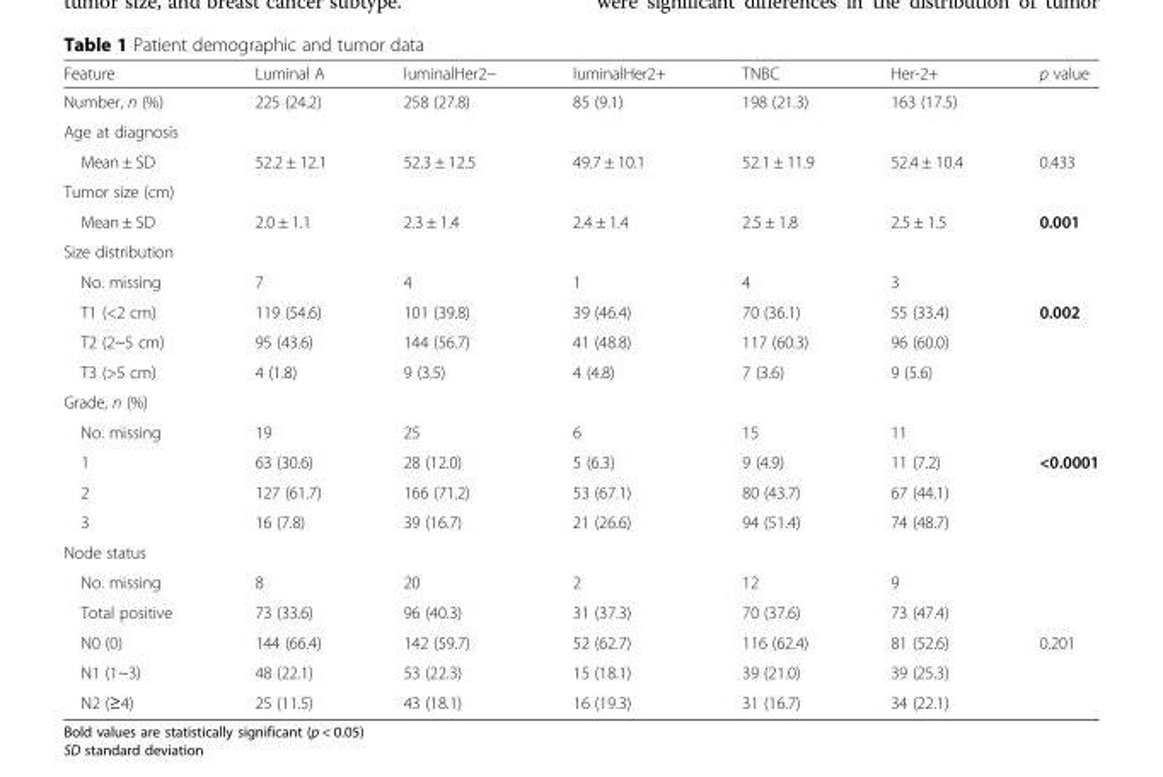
<table><thead><tr><td>Feature</td><td>Luminal A</td><td>luminalHer2−</td><td>luminalHer2+</td><td>TNBC</td><td>Her-2+</td><td>p value</td></tr></thead><tbody><tr><td>Number, n (%)</td><td>225 (24.2)</td><td>258 (27.8)</td><td>85 (9.1)</td><td>198 (21.3)</td><td>163 (17.5)</td><td></td></tr><tr><td colspan="7">Age at diagnosis</td></tr><tr><td>Mean ± SD</td><td>52.2 ± 12.1</td><td>52.3 ± 12.5</td><td>49.7 ± 10.1</td><td>52.1 ± 11.9</td><td>52.4 ± 10.4</td><td>0.433</td></tr><tr><td colspan="7">Tumor size (cm)</td></tr><tr><td>Mean ± SD</td><td>2.0 ± 1.1</td><td>2.3 ± 1.4</td><td>2.4 ± 1.4</td><td>2.5 ± 1.8</td><td>2.5 ± 1.5</td><td>0.001</td></tr><tr><td colspan="7">Size distribution</td></tr><tr><td>No. missing</td><td>7</td><td>4</td><td>1</td><td>4</td><td>3</td><td></td></tr><tr><td>T1 (&lt;2 cm)</td><td>119 (54.6)</td><td>101 (39.8)</td><td>39 (46.4)</td><td>70 (36.1)</td><td>55 (33.4)</td><td>0.002</td></tr><tr><td>T2 (2~5 cm)</td><td>95 (43.6)</td><td>144 (56.7)</td><td>41 (48.8)</td><td>117 (60.3)</td><td>96 (60.0)</td><td></td></tr><tr><td>T3 (&gt;5 cm)</td><td>4 (1.8)</td><td>9 (3.5)</td><td>4 (4.8)</td><td>7 (3.6)</td><td>9 (5.6)</td><td></td></tr><tr><td colspan="7">Grade, n (%)</td></tr><tr><td>No. missing</td><td>19</td><td>25</td><td>6</td><td>15</td><td>11</td><td></td></tr><tr><td>1</td><td>63 (30.6)</td><td>28 (12.0)</td><td>5 (6.3)</td><td>9 (4.9)</td><td>11 (7.2)</td><td>&lt;0.0001</td></tr><tr><td>2</td><td>127 (61.7)</td><td>166 (71.2)</td><td>53 (67.1)</td><td>80 (43.7)</td><td>67 (44.1)</td><td></td></tr><tr><td>3</td><td>16 (7.8)</td><td>39 (16.7)</td><td>21 (26.6)</td><td>94 (51.4)</td><td>74 (48.7)</td><td></td></tr><tr><td colspan="7">Node status</td></tr><tr><td>No. missing</td><td>8</td><td>20</td><td>2</td><td>12</td><td>9</td><td></td></tr><tr><td>Total positive</td><td>73 (33.6)</td><td>96 (40.3)</td><td>31 (37.3)</td><td>70 (37.6)</td><td>73 (47.4)</td><td></td></tr><tr><td>N0 (0)</td><td>144 (66.4)</td><td>142 (59.7)</td><td>52 (62.7)</td><td>116 (62.4)</td><td>81 (52.6)</td><td>0.201</td></tr><tr><td>N1 (1~3)</td><td>48 (22.1)</td><td>53 (22.3)</td><td>15 (18.1)</td><td>39 (21.0)</td><td>39 (25.3)</td><td></td></tr><tr><td>N2 (≥4)</td><td>25 (11.5)</td><td>43 (18.1)</td><td>16 (19.3)</td><td>31 (16.7)</td><td>34 (22.1)</td><td></td></tr></tbody></table>